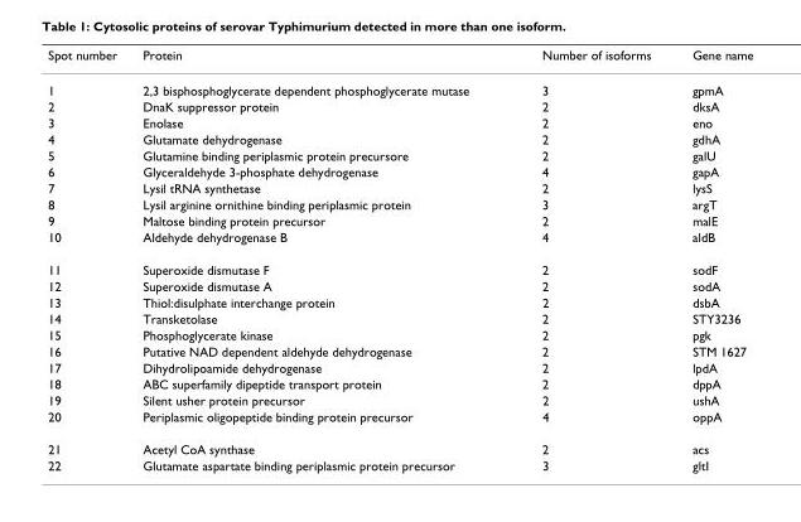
<table><thead><tr><td>Spot number</td><td>Protein</td><td>Number of isoforms</td><td>Gene name</td></tr></thead><tbody><tr><td>1</td><td>2,3 bisphosphoglycerate dependent phosphoglycerate mutase</td><td>3</td><td>gpmA</td></tr><tr><td>2</td><td>DnaK suppressor protein</td><td>2</td><td>dksA</td></tr><tr><td>3</td><td>Enolase</td><td>2</td><td>eno</td></tr><tr><td>4</td><td>Glutamate dehydrogenase</td><td>2</td><td>gdhA</td></tr><tr><td>5</td><td>Glutamine binding periplasmic protein precursore</td><td>2</td><td>galU</td></tr><tr><td>6</td><td>Glyceraldehyde 3-phosphate dehydrogenase</td><td>4</td><td>gapA</td></tr><tr><td>7</td><td>Lysil tRNA synthetase</td><td>2</td><td>lysS</td></tr><tr><td>8</td><td>Lysil arginine ornithine binding periplasmic protein</td><td>3</td><td>argT</td></tr><tr><td>9</td><td>Maltose binding protein precursor</td><td>2</td><td>malE</td></tr><tr><td>10</td><td>Aldehyde dehydrogenase B</td><td>4</td><td>aldB</td></tr><tr><td>11</td><td>Superoxide dismutase F</td><td>2</td><td>sodF</td></tr><tr><td>12</td><td>Superoxide dismutase A</td><td>2</td><td>sodA</td></tr><tr><td>13</td><td>Thiol:disulphate interchange protein</td><td>2</td><td>dsbA</td></tr><tr><td>14</td><td>Transketolase</td><td>2</td><td>STY3236</td></tr><tr><td>15</td><td>Phosphoglycerate kinase</td><td>2</td><td>pgk</td></tr><tr><td>16</td><td>Putative NAD dependent aldehyde dehydrogenase</td><td>2</td><td>STM 1627</td></tr><tr><td>17</td><td>Dihydrolipoamide dehydrogenase</td><td>2</td><td>lpdA</td></tr><tr><td>18</td><td>ABC superfamily dipeptide transport protein</td><td>2</td><td>dppA</td></tr><tr><td>19</td><td>Silent usher protein precursor</td><td>2</td><td>ushA</td></tr><tr><td>20</td><td>Periplasmic oligopeptide binding protein precursor</td><td>4</td><td>oppA</td></tr><tr><td>21</td><td>Acetyl CoA synthase</td><td>2</td><td>acs</td></tr><tr><td>22</td><td>Glutamate aspartate binding periplasmic protein precursor</td><td>3</td><td>gltI</td></tr></tbody></table>